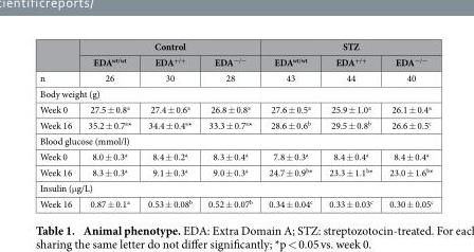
<table><thead><tr><td rowspan="2"></td><td colspan="3">Control</td><td colspan="3">STZ</td></tr><tr><td>EDA<sup>wt/wt</sup></td><td>EDA<sup>+/+</sup></td><td>EDA<sup>−/−</sup></td><td>EDA<sup>wt/wt</sup></td><td>EDA<sup>+/+</sup></td><td>EDA<sup>−/−</sup></td></tr></thead><tbody><tr><td>n</td><td>26</td><td>30</td><td>28</td><td>43</td><td>44</td><td>40</td></tr><tr><td colspan="7">Body weight (g)</td></tr><tr><td>Week 0</td><td>27.5 ± 0.8<sup>a</sup></td><td>27.4 ± 0.6<sup>a</sup></td><td>26.8 ± 0.8<sup>a</sup></td><td>27.6 ± 0.5<sup>a</sup></td><td>25.9 ± 1.0<sup>a</sup></td><td>26.1 ± 0.4<sup>a</sup></td></tr><tr><td>Week 16</td><td>35.2 ± 0.7<sup>a</sup>*</td><td>34.4 ± 0.4<sup>a</sup>*</td><td>33.3 ± 0.7<sup>a</sup>*</td><td>28.6 ± 0.6<sup>b</sup></td><td>29.5 ± 0.8<sup>b</sup></td><td>26.6 ± 0.5<sup>c</sup></td></tr><tr><td colspan="7">Blood glucose (mmol/l)</td></tr><tr><td>Week 0</td><td>8.0 ± 0.3<sup>a</sup></td><td>8.4 ± 0.2<sup>a</sup></td><td>8.3 ± 0.4<sup>a</sup></td><td>7.8 ± 0.3<sup>a</sup></td><td>8.4 ± 0.4<sup>a</sup></td><td>8.4 ± 0.4<sup>a</sup></td></tr><tr><td>Week 16</td><td>8.3 ± 0.3<sup>a</sup></td><td>9.1 ± 0.3<sup>a</sup></td><td>9.0 ± 0.3<sup>a</sup></td><td>24.7 ± 0.9<sup>b</sup>*</td><td>23.3 ± 1.1<sup>b</sup>*</td><td>23.0 ± 1.6<sup>b</sup>*</td></tr><tr><td colspan="7">Insulin (μ g/L)</td></tr><tr><td>Week 16</td><td>0.87 ± 0.1<sup>a</sup></td><td>0.53 ± 0.08<sup>b</sup></td><td>0.52 ± 0.07<sup>b</sup></td><td>0.34 ± 0.04<sup>c</sup></td><td>0.33 ± 0.03<sup>c</sup></td><td>0.30 ± 0.05<sup>c</sup></td></tr></tbody></table>